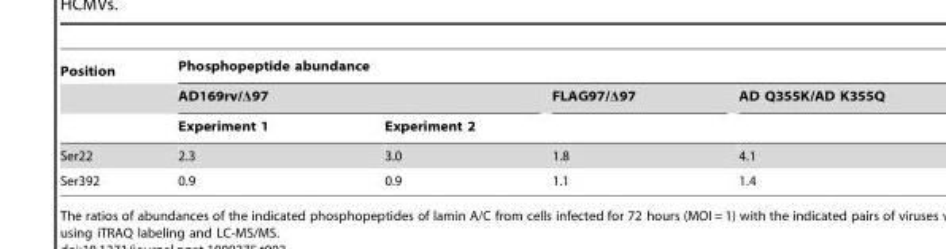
<table><thead><tr><td rowspan="3">Position</td><td colspan="4">Phosphopeptide abundance</td></tr><tr><td colspan="2">AD169rv/Δ97</td><td rowspan="2">FLAG97/Δ97</td><td rowspan="2">AD Q355K/AD K355Q</td></tr><tr><td>Experiment 1</td><td>Experiment 2</td></tr></thead><tbody><tr><td>Ser22</td><td>2.3</td><td>3.0</td><td>1.8</td><td>4.1</td></tr><tr><td>Ser392</td><td>0.9</td><td>0.9</td><td>1.1</td><td>1.4</td></tr></tbody></table>